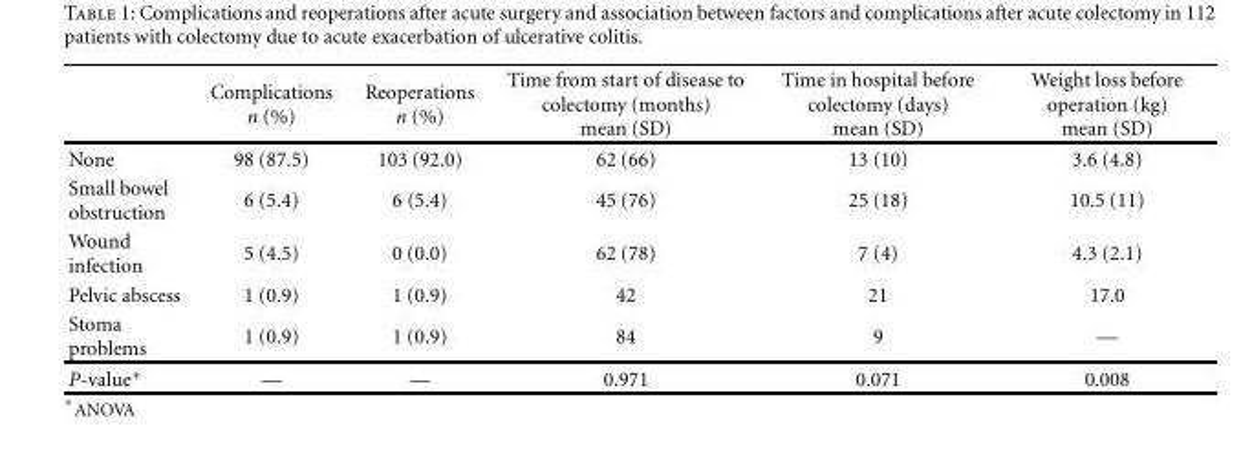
<table><thead><tr><td></td><td>Complications n (%)</td><td>Reoperations n (%)</td><td>Time from start of disease to colectomy (months) mean (SD)</td><td>Time in hospital before colectomy (days) mean (SD)</td><td>Weight loss before operation (kg) mean (SD)</td></tr></thead><tbody><tr><td>None</td><td>98 (87.5)</td><td>103 (92.0)</td><td>62 (66)</td><td>13 (10)</td><td>3.6 (4.8)</td></tr><tr><td>Small bowel obstruction</td><td>6 (5.4)</td><td>6 (5.4)</td><td>45 (76)</td><td>25 (18)</td><td>10.5 (11)</td></tr><tr><td>Wound infection</td><td>5 (4.5)</td><td>0 (0.0)</td><td>62 (78)</td><td>7 (4)</td><td>4.3 (2.1)</td></tr><tr><td>Pelvic abscess</td><td>1 (0.9)</td><td>1 (0.9)</td><td>42</td><td>21</td><td>17.0</td></tr><tr><td>Stoma problems</td><td>1 (0.9)</td><td>1 (0.9)</td><td>84</td><td>9</td><td>—</td></tr><tr><td>P-value∗</td><td>—</td><td>—</td><td>0.971</td><td>0.071</td><td>0.008</td></tr></tbody></table>